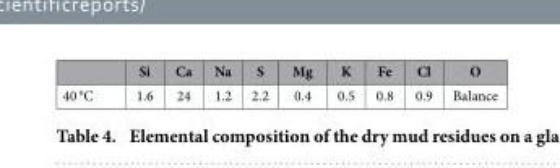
<table><thead><tr><td></td><td>Si</td><td>Ca</td><td>Na</td><td>S</td><td>Mg</td><td>K</td><td>Fe</td><td>Cl</td><td>O</td></tr></thead><tbody><tr><td>40 °C</td><td>1.6</td><td>24</td><td>1.2</td><td>2.2</td><td>0.4</td><td>0.5</td><td>0.8</td><td>0.9</td><td>Balance</td></tr></tbody></table>